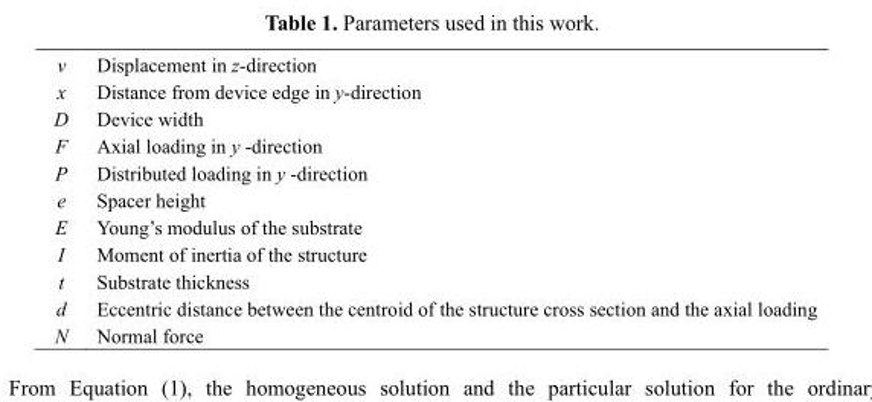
<table><tbody><tr><td>v</td><td>Displacement in z-direction</td></tr><tr><td>x</td><td>Distance from device edge in y-direction</td></tr><tr><td>D</td><td>Device width</td></tr><tr><td>F</td><td>Axial loading in y -direction</td></tr><tr><td>P</td><td>Distributed loading in y -direction</td></tr><tr><td>e</td><td>Spacer height</td></tr><tr><td>E</td><td>Young’s modulus of the substrate</td></tr><tr><td>I</td><td>Moment of inertia of the structure</td></tr><tr><td>t</td><td>Substrate thickness</td></tr><tr><td>d</td><td>Eccentric distance between the centroid of the structure cross section and the axial loading</td></tr><tr><td>N</td><td>Normal force</td></tr></tbody></table>